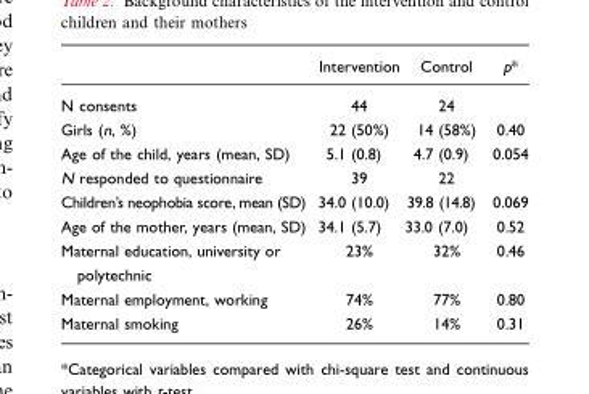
<table><thead><tr><td></td><td>Intervention</td><td>Control</td><td>p*</td></tr></thead><tbody><tr><td>N consents</td><td>44</td><td>24</td><td></td></tr><tr><td>Girls (n, %)</td><td>22 (50%)</td><td>14 (58%)</td><td>0.40</td></tr><tr><td>Age of the child, years (mean, SD)</td><td>5.1 (0.8)</td><td>4.7 (0.9)</td><td>0.054</td></tr><tr><td>N responded to questionnaire</td><td>39</td><td>22</td><td></td></tr><tr><td>Children’s neophobia score, mean (SD)</td><td>34.0 (10.0)</td><td>39.8 (14.8)</td><td>0.069</td></tr><tr><td>Age of the mother, years (mean, SD)</td><td>34.1 (5.7)</td><td>33.0 (7.0)</td><td>0.52</td></tr><tr><td>Maternal education, university or polytechnic</td><td>23%</td><td>32%</td><td>0.46</td></tr><tr><td>Maternal employment, working</td><td>74%</td><td>77%</td><td>0.80</td></tr><tr><td>Maternal smoking</td><td>26%</td><td>14%</td><td>0.31</td></tr></tbody></table>